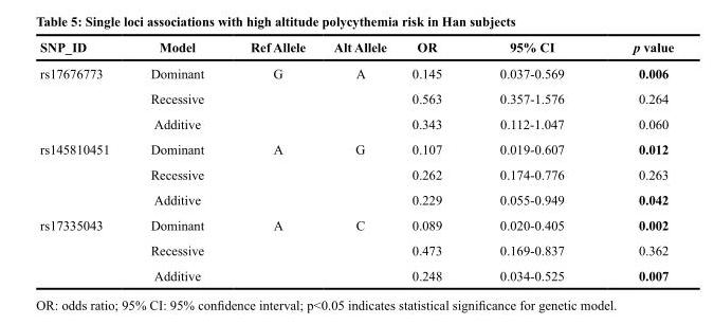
<table><thead><tr><td>SNP_ID</td><td>Model</td><td>Ref Allele</td><td>Alt Allele</td><td>OR</td><td>95% CI</td><td>p value</td></tr></thead><tbody><tr><td rowspan="3">rs17676773</td><td>Dominant</td><td>G</td><td>A</td><td>0.145</td><td>0.037-0.569</td><td>0.006</td></tr><tr><td>Recessive</td><td></td><td></td><td>0.563</td><td>0.357-1.576</td><td>0.264</td></tr><tr><td>Additive</td><td></td><td></td><td>0.343</td><td>0.112-1.047</td><td>0.060</td></tr><tr><td rowspan="3">rs145810451</td><td>Dominant</td><td>A</td><td>G</td><td>0.107</td><td>0.019-0.607</td><td>0.012</td></tr><tr><td>Recessive</td><td></td><td></td><td>0.262</td><td>0.174-0.776</td><td>0.263</td></tr><tr><td>Additive</td><td></td><td></td><td>0.229</td><td>0.055-0.949</td><td>0.042</td></tr><tr><td rowspan="3">rs17335043</td><td>Dominant</td><td>A</td><td>C</td><td>0.089</td><td>0.020-0.405</td><td>0.002</td></tr><tr><td>Recessive</td><td></td><td></td><td>0.473</td><td>0.169-0.837</td><td>0.362</td></tr><tr><td>Additive</td><td></td><td></td><td>0.248</td><td>0.034-0.525</td><td>0.007</td></tr></tbody></table>